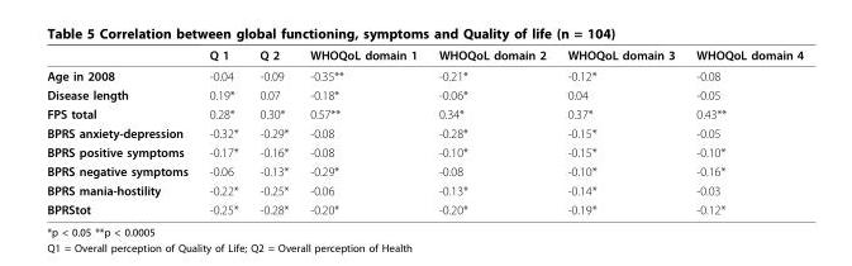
<table><thead><tr><td></td><td>Q 1</td><td>Q 2</td><td>WHOQoL domain 1</td><td>WHOQoL domain 2</td><td>WHOQoL domain 3</td><td>WHOQoL domain 4</td></tr></thead><tbody><tr><td>Age in 2008</td><td>-0.04</td><td>-0.09</td><td>-0.35**</td><td>-0.21*</td><td>-0.12*</td><td>-0.08</td></tr><tr><td>Disease length</td><td>0.19*</td><td>0.07</td><td>-0.18*</td><td>-0.06*</td><td>0.04</td><td>-0.05</td></tr><tr><td>FPS total</td><td>0.28*</td><td>0.30*</td><td>0.57**</td><td>0.34*</td><td>0.37*</td><td>0.43**</td></tr><tr><td>BPRS anxiety-depression</td><td>-0.32*</td><td>-0.29*</td><td>-0.08</td><td>-0.28*</td><td>-0.15*</td><td>-0.05</td></tr><tr><td>BPRS positive symptoms</td><td>-0.17*</td><td>-0.16*</td><td>-0.08</td><td>-0.10*</td><td>-0.15*</td><td>-0.10*</td></tr><tr><td>BPRS negative symptoms</td><td>-0.06</td><td>-0.13*</td><td>-0.29*</td><td>-0.08</td><td>-0.10*</td><td>-0.16*</td></tr><tr><td>BPRS mania-hostility</td><td>-0.22*</td><td>-0.25*</td><td>-0.06</td><td>-0.13*</td><td>-0.14*</td><td>-0.03</td></tr><tr><td>BPRStot</td><td>-0.25*</td><td>-0.28*</td><td>-0.20*</td><td>-0.20*</td><td>-0.19*</td><td>-0.12*</td></tr></tbody></table>